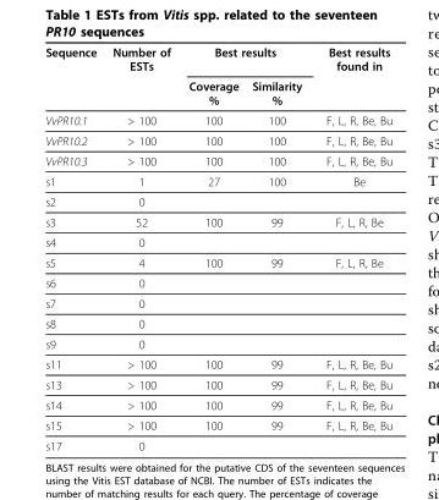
<table><thead><tr><td rowspan="2">Sequence</td><td rowspan="2">Number of ESTs</td><td colspan="2">Best results</td><td rowspan="2">Best results found in</td></tr><tr><td>Coverage %</td><td>Similarity %</td></tr></thead><tbody><tr><td>VvPR10.1</td><td>&gt; 100</td><td>100</td><td>100</td><td>F, L, R, Be, Bu</td></tr><tr><td>VvPR10.2</td><td>&gt; 100</td><td>100</td><td>100</td><td>F, L, R, Be, Bu</td></tr><tr><td>VvPR10.3</td><td>&gt; 100</td><td>100</td><td>100</td><td>F, L, R, Be, Bu</td></tr><tr><td>s1</td><td>1</td><td>27</td><td>100</td><td>Be</td></tr><tr><td>s2</td><td>0</td><td></td><td></td><td></td></tr><tr><td>s3</td><td>52</td><td>100</td><td>99</td><td>F, L, R, Be</td></tr><tr><td>s4</td><td>0</td><td></td><td></td><td></td></tr><tr><td>s5</td><td>4</td><td>100</td><td>99</td><td>F, L, R, Be</td></tr><tr><td>s6</td><td>0</td><td></td><td></td><td></td></tr><tr><td>s7</td><td>0</td><td></td><td></td><td></td></tr><tr><td>s8</td><td>0</td><td></td><td></td><td></td></tr><tr><td>s9</td><td>0</td><td></td><td></td><td></td></tr><tr><td>s11</td><td>&gt; 100</td><td>100</td><td>99</td><td>F, L, R, Be, Bu</td></tr><tr><td>s13</td><td>&gt; 100</td><td>100</td><td>99</td><td>F, L, R, Be, Bu</td></tr><tr><td>s14</td><td>&gt; 100</td><td>100</td><td>99</td><td>F, L, R, Be, Bu</td></tr><tr><td>s15</td><td>&gt; 100</td><td>100</td><td>99</td><td>F, L, R, Be, Bu</td></tr><tr><td>s17</td><td>0</td><td></td><td></td><td></td></tr></tbody></table>